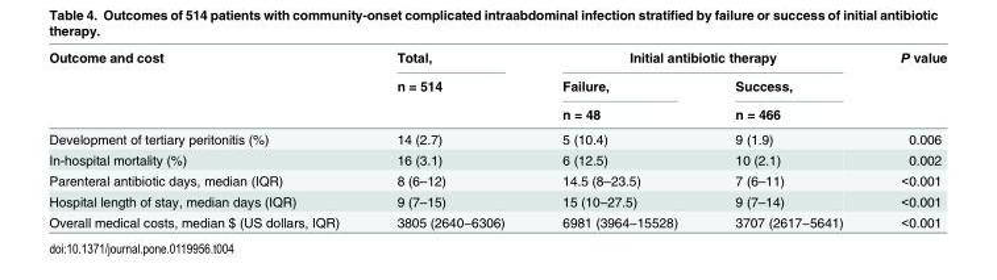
<table><thead><tr><td rowspan="3">Outcome and cost</td><td rowspan="3">Total, n = 514</td><td colspan="2">Initial antibiotic therapy</td><td rowspan="3">P value</td></tr><tr><td rowspan="2">Failure, n = 48</td><td rowspan="2">Success, n = 466</td></tr><tr></tr></thead><tbody><tr><td>Development of tertiary peritonitis (%)</td><td>14 (2.7)</td><td>5 (10.4)</td><td>9 (1.9)</td><td>0.006</td></tr><tr><td>In-hospital mortality (%)</td><td>16 (3.1)</td><td>6 (12.5)</td><td>10 (2.1)</td><td>0.002</td></tr><tr><td>Parenteral antibiotic days, median (IQR)</td><td>8 (6–12)</td><td>14.5 (8–23.5)</td><td>7 (6–11)</td><td>&lt;0.001</td></tr><tr><td>Hospital length of stay, median days (IQR)</td><td>9 (7–15)</td><td>15 (10–27.5)</td><td>9 (7–14)</td><td>&lt;0.001</td></tr><tr><td>Overall medical costs, median $ (US dollars, IQR)</td><td>3805 (2640−6306)</td><td>6981 (3964−15528)</td><td>3707 (2617−5641)</td><td>&lt;0.001</td></tr></tbody></table>